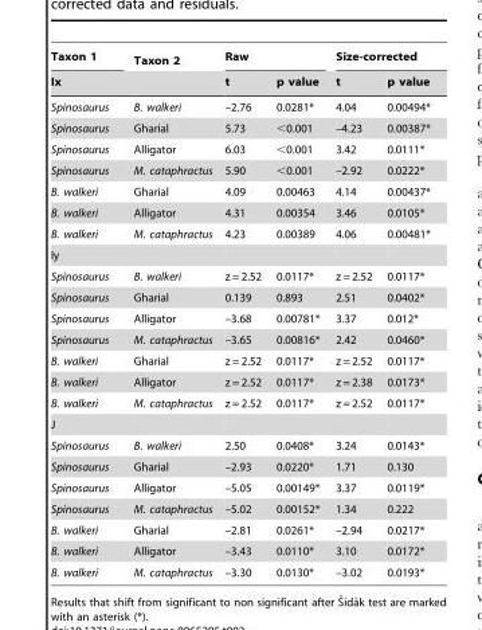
<table><thead><tr><td rowspan="2">Taxon 1 Ix</td><td rowspan="2">Taxon 2</td><td colspan="2">Raw</td><td colspan="2">Size-corrected</td></tr><tr><td>t</td><td>p value</td><td>t</td><td>p value</td></tr></thead><tbody><tr><td>Spinosaurus</td><td>B. walkeri</td><td>–2.76</td><td>0.0281*</td><td>4.04</td><td>0.00494*</td></tr><tr><td>Spinosaurus</td><td>Gharial</td><td>5.73</td><td>&lt;0.001</td><td>–4.23</td><td>0.00387*</td></tr><tr><td>Spinosaurus</td><td>Alligator</td><td>6.03</td><td>&lt;0.001</td><td>3.42</td><td>0.0111*</td></tr><tr><td>Spinosaurus</td><td>M. cataphractus</td><td>5.90</td><td>&lt;0.001</td><td>–2.92</td><td>0.0222*</td></tr><tr><td>B. walkeri</td><td>Gharial</td><td>4.09</td><td>0.00463</td><td>4.14</td><td>0.00437*</td></tr><tr><td>B. walkeri</td><td>Alligator</td><td>4.31</td><td>0.00354</td><td>3.46</td><td>0.0105*</td></tr><tr><td>B. walkeri</td><td>M. cataphractus</td><td>4.23</td><td>0.00389</td><td>4.06</td><td>0.00481*</td></tr><tr><td colspan="6">Iy</td></tr><tr><td>Spinosaurus</td><td>B. walkeri</td><td>z = 2.52</td><td>0.0117*</td><td>z = 2.52</td><td>0.0117*</td></tr><tr><td>Spinosaurus</td><td>Gharial</td><td>0.139</td><td>0.893</td><td>2.51</td><td>0.0402*</td></tr><tr><td>Spinosaurus</td><td>Alligator</td><td>–3.68</td><td>0.00781*</td><td>3.37</td><td>0.012*</td></tr><tr><td>Spinosaurus</td><td>M. cataphractus</td><td>–3.65</td><td>0.00816*</td><td>2.42</td><td>0.0460*</td></tr><tr><td>B. walkeri</td><td>Gharial</td><td>z = 2.52</td><td>0.0117*</td><td>z = 2.52</td><td>0.0117*</td></tr><tr><td>B. walkeri</td><td>Alligator</td><td>z = 2.52</td><td>0.0117*</td><td>z = 2.38</td><td>0.0173*</td></tr><tr><td>B. walkeri</td><td>M. cataphractus</td><td>z = 2.52</td><td>0.0117*</td><td>z = 2.52</td><td>0.0117*</td></tr><tr><td colspan="6">J</td></tr><tr><td>Spinosaurus</td><td>B. walkeri</td><td>2.50</td><td>0.0408*</td><td>3.24</td><td>0.0143*</td></tr><tr><td>Spinosaurus</td><td>Gharial</td><td>–2.93</td><td>0.0220*</td><td>1.71</td><td>0.130</td></tr><tr><td>Spinosaurus</td><td>Alligator</td><td>–5.05</td><td>0.00149*</td><td>3.37</td><td>0.0119*</td></tr><tr><td>Spinosaurus</td><td>M. cataphractus</td><td>–5.02</td><td>0.00152*</td><td>1.34</td><td>0.222</td></tr><tr><td>B. walkeri</td><td>Gharial</td><td>–2.81</td><td>0.0261*</td><td>–2.94</td><td>0.0217*</td></tr><tr><td>B. walkeri</td><td>Alligator</td><td>–3.43</td><td>0.0110*</td><td>3.10</td><td>0.0172*</td></tr><tr><td>B. walkeri</td><td>M. cataphractus</td><td>–3.30</td><td>0.0130*</td><td>–3.02</td><td>0.0193*</td></tr></tbody></table>